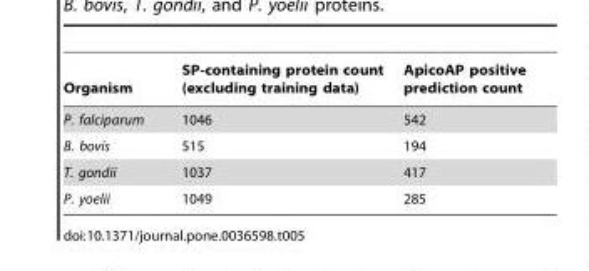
<table><thead><tr><td>Organism</td><td>SP-containing protein count (excluding training data)</td><td>ApicoAP positive prediction count</td></tr></thead><tbody><tr><td>P. falciparum</td><td>1046</td><td>542</td></tr><tr><td>B. bovis</td><td>515</td><td>194</td></tr><tr><td>T. gondii</td><td>1037</td><td>417</td></tr><tr><td>P. yoelii</td><td>1049</td><td>285</td></tr></tbody></table>